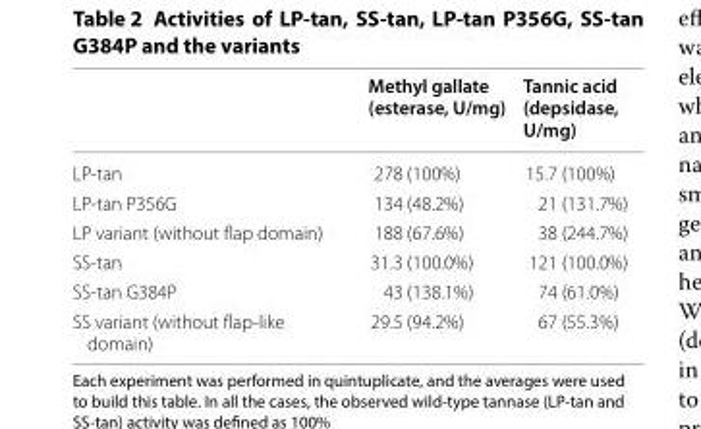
<table><thead><tr><td></td><td>Methyl gallate (esterase, U/mg)</td><td>Tannic acid (depsidase, U/mg)</td></tr></thead><tbody><tr><td>LP-tan</td><td>278 (100%)</td><td>15.7 (100%)</td></tr><tr><td>LP-tan P356G</td><td>134 (48.2%)</td><td>21 (131.7%)</td></tr><tr><td>LP variant (without flap domain)</td><td>188 (67.6%)</td><td>38 (244.7%)</td></tr><tr><td>SS-tan</td><td>31.3 (100.0%)</td><td>121 (100.0%)</td></tr><tr><td>SS-tan G384P</td><td>43 (138.1%)</td><td>74 (61.0%)</td></tr><tr><td>SS variant (without flap-like domain)</td><td>29.5 (94.2%)</td><td>67 (55.3%)</td></tr></tbody></table>